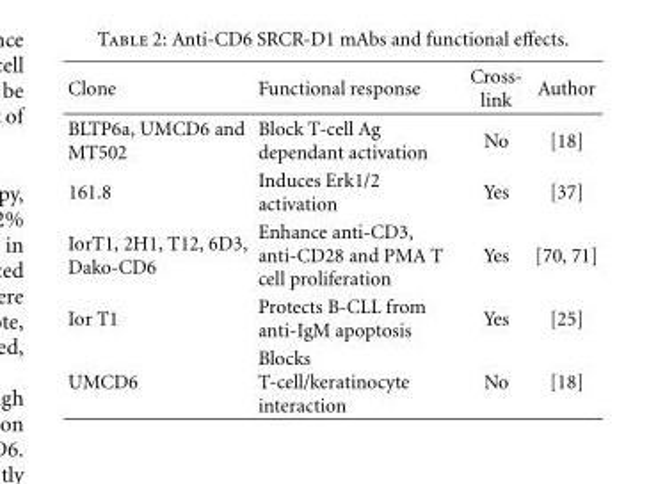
<table><thead><tr><td>Clone</td><td>Functional response</td><td>Cross- link</td><td>Author</td></tr></thead><tbody><tr><td>BLTP6a, UMCD6 and MT502</td><td>Block T-cell Ag dependant activation</td><td>No</td><td>[18]</td></tr><tr><td>161.8</td><td>Induces Erk1/2 activation</td><td>Yes</td><td>[37]</td></tr><tr><td>IorT1, 2H1, T12, 6D3, Dako-CD6</td><td>Enhance anti-CD3, anti-CD28 and PMA T cell proliferation</td><td>Yes</td><td>[70, 71]</td></tr><tr><td>Ior T1</td><td>Protects B-CLL from anti-IgM apoptosis</td><td>Yes</td><td>[25]</td></tr><tr><td>UMCD6</td><td>Blocks T-cell/keratinocyte interaction</td><td>No</td><td>[18]</td></tr></tbody></table>